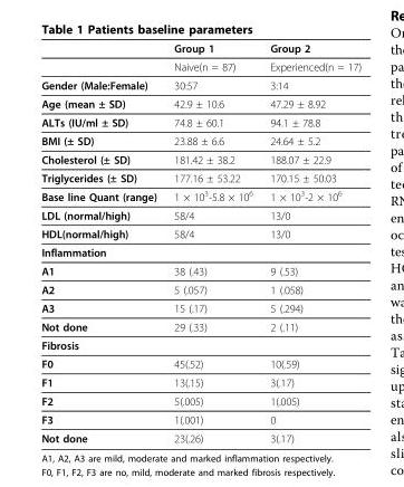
<table><thead><tr><td></td><td>Group 1</td><td>Group 2</td></tr></thead><tbody><tr><td></td><td>Naive(n = 87)</td><td>Experienced(n = 17)</td></tr><tr><td>Gender (Male:Female)</td><td>30:57</td><td>3:14</td></tr><tr><td>Age (mean ± SD)</td><td>42.9 ± 10.6</td><td>47.29 ± 8.92</td></tr><tr><td>ALTs (IU/ml ± SD)</td><td>74.8 ± 60.1</td><td>94.1 ± 78.8</td></tr><tr><td>BMI (± SD)</td><td>23.88 ± 6.6</td><td>24.64 ± 5.2</td></tr><tr><td>Cholesterol (± SD)</td><td>181.42 ± 38.2</td><td>188.07 ± 22.9</td></tr><tr><td>Triglycerides (± SD)</td><td>177.16 ± 53.22</td><td>170.15 ± 50.03</td></tr><tr><td>Base line Quant (range)</td><td>1 × 10<sup>3</sup>-5.8 × 10<sup>6</sup></td><td>1 × 10<sup>3</sup>-2 × 10<sup>6</sup></td></tr><tr><td>LDL (normal/high)</td><td>58/4</td><td>13/0</td></tr><tr><td>HDL(normal/high)</td><td>58/4</td><td>13/0</td></tr><tr><td colspan="3">Inflammation</td></tr><tr><td>A1</td><td>38 (.43)</td><td>9 (.53)</td></tr><tr><td>A2</td><td>5 (.057)</td><td>1 (.058)</td></tr><tr><td>A3</td><td>15 (.17)</td><td>5 (.294)</td></tr><tr><td>Not done</td><td>29 (.33)</td><td>2 (.11)</td></tr><tr><td colspan="3">Fibrosis</td></tr><tr><td>F0</td><td>45(.52)</td><td>10(.59)</td></tr><tr><td>F1</td><td>13(.15)</td><td>3(.17)</td></tr><tr><td>F2</td><td>5(.005)</td><td>1(.005)</td></tr><tr><td>F3</td><td>1(.001)</td><td>0</td></tr><tr><td>Not done</td><td>23(.26)</td><td>3(.17)</td></tr></tbody></table>